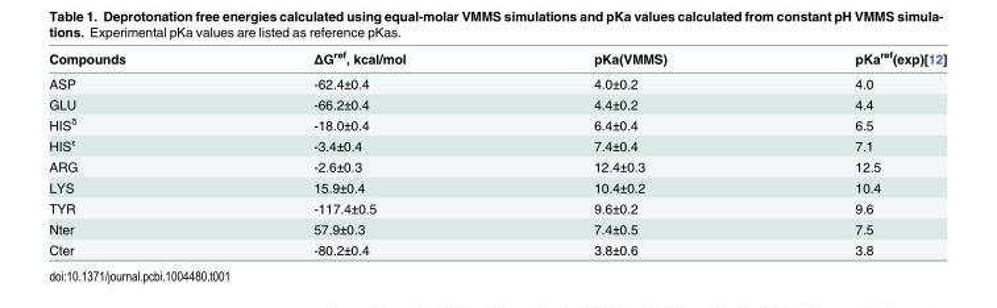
<table><thead><tr><td>Compounds</td><td>ΔG<sup>ref</sup>, kcal/mol</td><td>pKa(VMMS)</td><td>pKa<sup>ref</sup>(exp)[12]</td></tr></thead><tbody><tr><td>ASP</td><td>-62.4±0.4</td><td>4.0±0.2</td><td>4.0</td></tr><tr><td>GLU</td><td>-66.2±0.4</td><td>4.4±0.2</td><td>4.4</td></tr><tr><td>HIS<sup>δ</sup></td><td>-18.0±0.4</td><td>6.4±0.4</td><td>6.5</td></tr><tr><td>HIS<sup>ε</sup></td><td>-3.4±0.4</td><td>7.4±0.4</td><td>7.1</td></tr><tr><td>ARG</td><td>-2.6±0.3</td><td>12.4±0.3</td><td>12.5</td></tr><tr><td>LYS</td><td>15.9±0.4</td><td>10.4±0.2</td><td>10.4</td></tr><tr><td>TYR</td><td>-117.4±0.5</td><td>9.6±0.2</td><td>9.6</td></tr><tr><td>Nter</td><td>57.9±0.3</td><td>7.4±0.5</td><td>7.5</td></tr><tr><td>Cter</td><td>-80.2±0.4</td><td>3.8±0.6</td><td>3.8</td></tr></tbody></table>